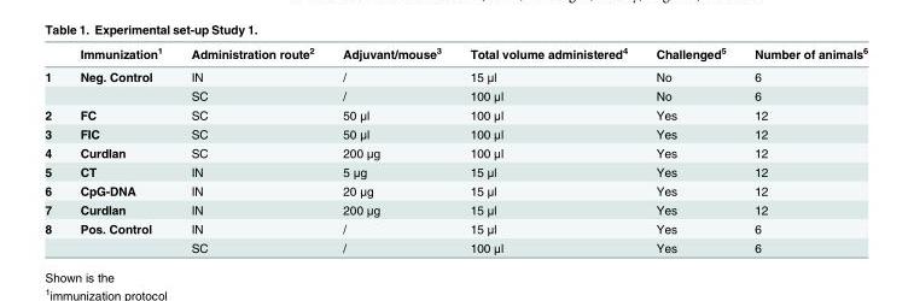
<table><thead><tr><td></td><td>Immunization<sup>1</sup></td><td>Administration route<sup>2</sup></td><td>Adjuvant/mouse<sup>3</sup></td><td>Total volume administered<sup>4</sup></td><td>Challenged<sup>5</sup></td><td>Number of animals<sup>6</sup></td></tr></thead><tbody><tr><td rowspan="2">1</td><td>Neg. Control</td><td>IN</td><td>/</td><td>15 μl</td><td>No</td><td>6</td></tr><tr><td></td><td>SC</td><td>/</td><td>100 μl</td><td>No</td><td>6</td></tr><tr><td>2</td><td>FC</td><td>SC</td><td>50 μl</td><td>100 μl</td><td>Yes</td><td>12</td></tr><tr><td>3</td><td>FIC</td><td>SC</td><td>50 μl</td><td>100 μl</td><td>Yes</td><td>12</td></tr><tr><td>4</td><td>Curdlan</td><td>SC</td><td>200 μg</td><td>100 μl</td><td>Yes</td><td>12</td></tr><tr><td>5</td><td>CT</td><td>IN</td><td>5 μg</td><td>15 μl</td><td>Yes</td><td>12</td></tr><tr><td>6</td><td>CpG-DNA</td><td>IN</td><td>20 μg</td><td>15 μl</td><td>Yes</td><td>12</td></tr><tr><td>7</td><td>Curdlan</td><td>IN</td><td>200 μg</td><td>15 μl</td><td>Yes</td><td>12</td></tr><tr><td rowspan="2">8</td><td>Pos. Control</td><td>IN</td><td>/</td><td>15 μl</td><td>Yes</td><td>6</td></tr><tr><td></td><td>SC</td><td>/</td><td>100 μl</td><td>Yes</td><td>6</td></tr></tbody></table>